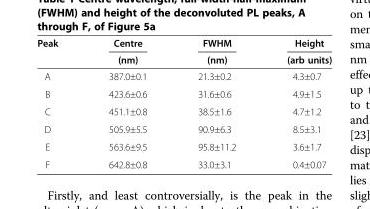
<table><thead><tr><td rowspan="2">Peak</td><td rowspan="2">Centre (nm)</td><td rowspan="2">FWHM (nm)</td><td rowspan="2">Height (arb units)</td></tr><tr></tr></thead><tbody><tr><td>A</td><td>387.0±0.1</td><td>21.3±0.2</td><td>4.3±0.7</td></tr><tr><td>B</td><td>423.6±0.6</td><td>31.6±0.6</td><td>4.9±1.5</td></tr><tr><td>C</td><td>451.1±0.8</td><td>38.5±1.6</td><td>4.7±1.2</td></tr><tr><td>D</td><td>505.9±5.5</td><td>90.9±6.3</td><td>8.5±3.1</td></tr><tr><td>E</td><td>563.6±9.5</td><td>95.8±11.2</td><td>3.6±1.7</td></tr><tr><td>F</td><td>642.8±0.8</td><td>33.0±3.1</td><td>0.4±0.07</td></tr></tbody></table>